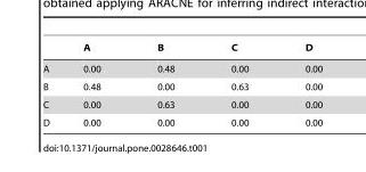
<table><thead><tr><td></td><td>A</td><td>B</td><td>C</td><td>D</td></tr></thead><tbody><tr><td>A</td><td>0.00</td><td>0.48</td><td>0.00</td><td>0.00</td></tr><tr><td>B</td><td>0.48</td><td>0.00</td><td>0.63</td><td>0.00</td></tr><tr><td>C</td><td>0.00</td><td>0.63</td><td>0.00</td><td>0.00</td></tr><tr><td>D</td><td>0.00</td><td>0.00</td><td>0.00</td><td>0.00</td></tr></tbody></table>